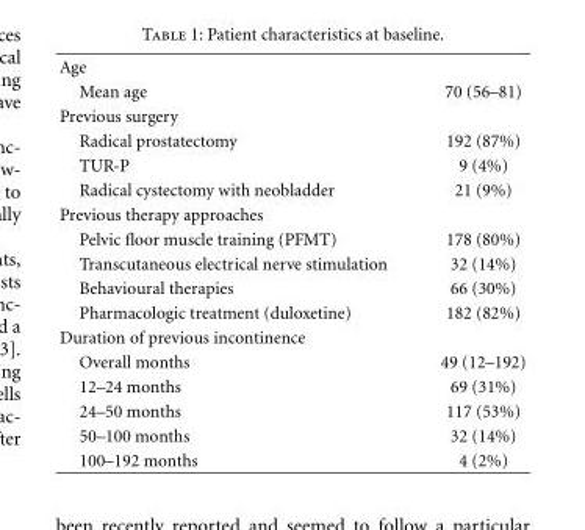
<table><tbody><tr><td colspan="2">Age</td></tr><tr><td>Mean age</td><td>70 (56–81)</td></tr><tr><td colspan="2">Previous surgery</td></tr><tr><td>Radical prostatectomy</td><td>192 (87%)</td></tr><tr><td>TUR-P</td><td>9 (4%)</td></tr><tr><td>Radical cystectomy with neobladder</td><td>21 (9%)</td></tr><tr><td colspan="2">Previous therapy approaches</td></tr><tr><td>Pelvic floor muscle training (PFMT)</td><td>178 (80%)</td></tr><tr><td>Transcutaneous electrical nerve stimulation</td><td>32 (14%)</td></tr><tr><td>Behavioural therapies</td><td>66 (30%)</td></tr><tr><td>Pharmacologic treatment (duloxetine)</td><td>182 (82%)</td></tr><tr><td colspan="2">Duration of previous incontinence</td></tr><tr><td>Overall months</td><td>49 (12–192)</td></tr><tr><td>12–24 months</td><td>69 (31%)</td></tr><tr><td>24–50 months</td><td>117 (53%)</td></tr><tr><td>50–100 months</td><td>32 (14%)</td></tr><tr><td>100–192 months</td><td>4 (2%)</td></tr></tbody></table>